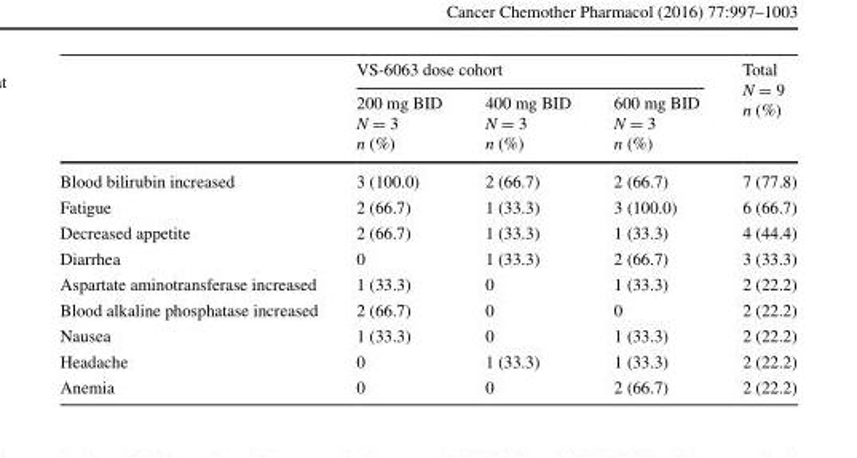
<table><thead><tr><td rowspan="2"></td><td colspan="3">VS-6063 dose cohort</td><td rowspan="2">Total N = 9 n (%)</td></tr><tr><td>200 mg BID N = 3 n (%)</td><td>400 mg BID N = 3 n (%)</td><td>600 mg BID N = 3 n (%)</td></tr></thead><tbody><tr><td>Blood bilirubin increased</td><td>3 (100.0)</td><td>2 (66.7)</td><td>2 (66.7)</td><td>7 (77.8)</td></tr><tr><td>Fatigue</td><td>2 (66.7)</td><td>1 (33.3)</td><td>3 (100.0)</td><td>6 (66.7)</td></tr><tr><td>Decreased appetite</td><td>2 (66.7)</td><td>1 (33.3)</td><td>1 (33.3)</td><td>4 (44.4)</td></tr><tr><td>Diarrhea</td><td>0</td><td>1 (33.3)</td><td>2 (66.7)</td><td>3 (33.3)</td></tr><tr><td>Aspartate aminotransferase increased</td><td>1 (33.3)</td><td>0</td><td>1 (33.3)</td><td>2 (22.2)</td></tr><tr><td>Blood alkaline phosphatase increased</td><td>2 (66.7)</td><td>0</td><td>0</td><td>2 (22.2)</td></tr><tr><td>Nausea</td><td>1 (33.3)</td><td>0</td><td>1 (33.3)</td><td>2 (22.2)</td></tr><tr><td>Headache</td><td>0</td><td>1 (33.3)</td><td>1 (33.3)</td><td>2 (22.2)</td></tr><tr><td>Anemia</td><td>0</td><td>0</td><td>2 (66.7)</td><td>2 (22.2)</td></tr></tbody></table>